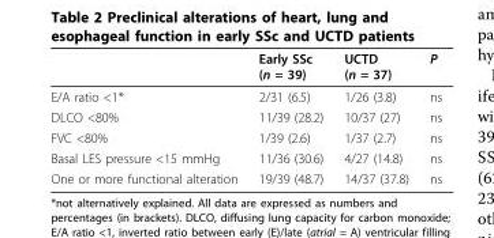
<table><thead><tr><td></td><td>Early SSc (n = 39)</td><td>UCTD (n = 37)</td><td>P</td></tr></thead><tbody><tr><td>E/A ratio &lt;1*</td><td>2/31 (6.5)</td><td>1/26 (3.8)</td><td>ns</td></tr><tr><td>DLCO &lt;80%</td><td>11/39 (28.2)</td><td>10/37 (27)</td><td>ns</td></tr><tr><td>FVC &lt;80%</td><td>1/39 (2.6)</td><td>1/37 (2.7)</td><td>ns</td></tr><tr><td>Basal LES pressure &lt;15 mmHg</td><td>11/36 (30.6)</td><td>4/27 (14.8)</td><td>ns</td></tr><tr><td>One or more functional alteration</td><td>19/39 (48.7)</td><td>14/37 (37.8)</td><td>ns</td></tr></tbody></table>